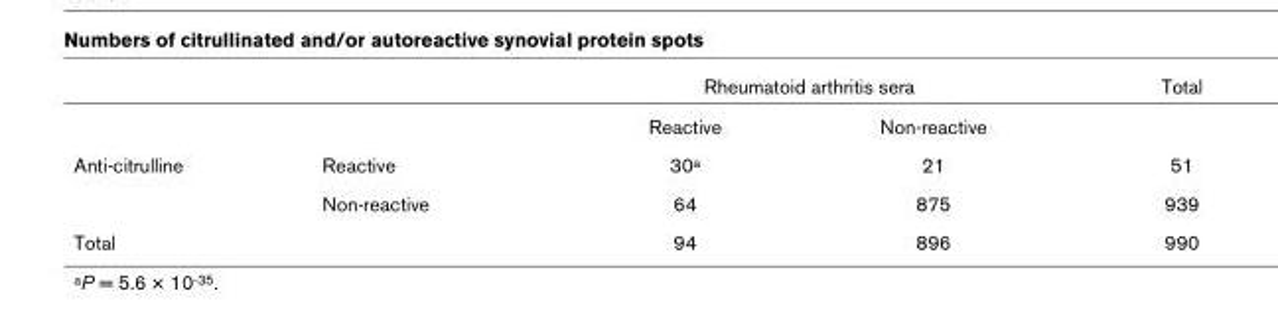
<table><thead><tr><td rowspan="2"></td><td rowspan="2"></td><td colspan="2">Rheumatoid arthritis sera</td><td rowspan="2">Total</td></tr><tr><td>Reactive</td><td>Non-reactive</td></tr></thead><tbody><tr><td rowspan="2">Anti-citrulline</td><td>Reactive</td><td>30a</td><td>21</td><td>51</td></tr><tr><td>Non-reactive</td><td>64</td><td>875</td><td>939</td></tr><tr><td>Total</td><td></td><td>94</td><td>896</td><td>990</td></tr></tbody></table>